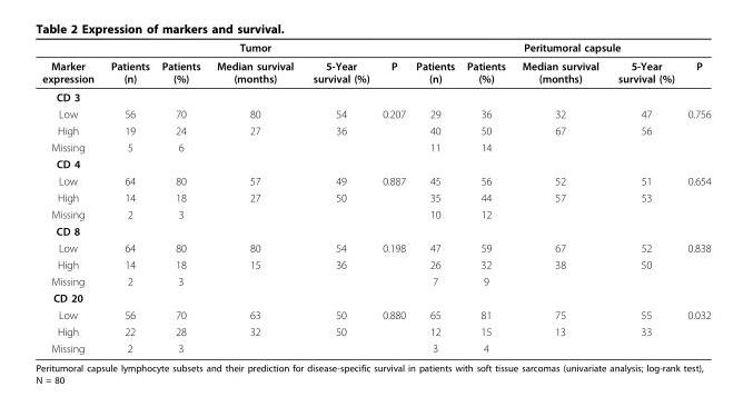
<table><thead><tr><td rowspan="2">Marker expression</td><td rowspan="2">Patients (n)</td><td rowspan="2">Patients (%)</td><td rowspan="2">Tumor Median survival (months)</td><td rowspan="2">5-Year survival (%)</td><td rowspan="2">P</td><td rowspan="2">Patients (n)</td><td colspan="3">Peritumoral capsule</td><td rowspan="2">P</td></tr><tr><td>Patients (%)</td><td>Median survival (months)</td><td>5-Year survival (%)</td></tr></thead><tbody><tr><td colspan="11">CD 3</td></tr><tr><td>Low</td><td>56</td><td>70</td><td>80</td><td>54</td><td>0.207</td><td>29</td><td>36</td><td>32</td><td>47</td><td>0.756</td></tr><tr><td>High</td><td>19</td><td>24</td><td>27</td><td>36</td><td></td><td>40</td><td>50</td><td>67</td><td>56</td><td></td></tr><tr><td>Missing</td><td>5</td><td>6</td><td></td><td></td><td></td><td>11</td><td>14</td><td></td><td></td><td></td></tr><tr><td colspan="11">CD 4</td></tr><tr><td>Low</td><td>64</td><td>80</td><td>57</td><td>49</td><td>0.887</td><td>45</td><td>56</td><td>52</td><td>51</td><td>0.654</td></tr><tr><td>High</td><td>14</td><td>18</td><td>27</td><td>50</td><td></td><td>35</td><td>44</td><td>57</td><td>53</td><td></td></tr><tr><td>Missing</td><td>2</td><td>3</td><td></td><td></td><td></td><td>10</td><td>12</td><td></td><td></td><td></td></tr><tr><td colspan="11">CD 8</td></tr><tr><td>Low</td><td>64</td><td>80</td><td>80</td><td>54</td><td>0.198</td><td>47</td><td>59</td><td>67</td><td>52</td><td>0.838</td></tr><tr><td>High</td><td>14</td><td>18</td><td>15</td><td>36</td><td></td><td>26</td><td>32</td><td>38</td><td>50</td><td></td></tr><tr><td>Missing</td><td>2</td><td>3</td><td></td><td></td><td></td><td>7</td><td>9</td><td></td><td></td><td></td></tr><tr><td colspan="11">CD 20</td></tr><tr><td>Low</td><td>56</td><td>70</td><td>63</td><td>50</td><td>0.880</td><td>65</td><td>81</td><td>75</td><td>55</td><td>0.032</td></tr><tr><td>High</td><td>22</td><td>28</td><td>32</td><td>50</td><td></td><td>12</td><td>15</td><td>13</td><td>33</td><td></td></tr><tr><td>Missing</td><td>2</td><td>3</td><td></td><td></td><td></td><td>3</td><td>4</td><td></td><td></td><td></td></tr></tbody></table>